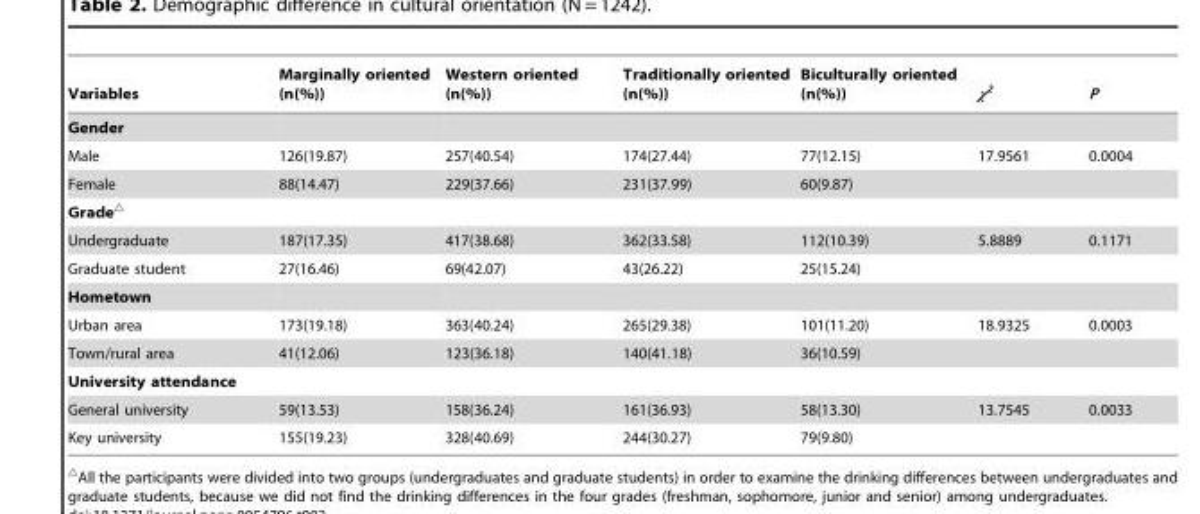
<table><thead><tr><td>Variables</td><td>Marginally oriented (n(%))</td><td>Western oriented (n(%))</td><td>Traditionally oriented (n(%))</td><td>Biculturally oriented (n(%))</td><td>χ<sup>2</sup></td><td>P</td></tr></thead><tbody><tr><td colspan="7">Gender</td></tr><tr><td>Male</td><td>126(19.87)</td><td>257(40.54)</td><td>174(27.44)</td><td>77(12.15)</td><td>17.9561</td><td>0.0004</td></tr><tr><td>Female</td><td>88(14.47)</td><td>229(37.66)</td><td>231(37.99)</td><td>60(9.87)</td><td></td><td></td></tr><tr><td colspan="7">Grade△</td></tr><tr><td>Undergraduate</td><td>187(17.35)</td><td>417(38.68)</td><td>362(33.58)</td><td>112(10.39)</td><td>5.8889</td><td>0.1171</td></tr><tr><td>Graduate student</td><td>27(16.46)</td><td>69(42.07)</td><td>43(26.22)</td><td>25(15.24)</td><td></td><td></td></tr><tr><td colspan="7">Hometown</td></tr><tr><td>Urban area</td><td>173(19.18)</td><td>363(40.24)</td><td>265(29.38)</td><td>101(11.20)</td><td>18.9325</td><td>0.0003</td></tr><tr><td>Town/rural area</td><td>41(12.06)</td><td>123(36.18)</td><td>140(41.18)</td><td>36(10.59)</td><td></td><td></td></tr><tr><td colspan="7">University attendance</td></tr><tr><td>General university</td><td>59(13.53)</td><td>158(36.24)</td><td>161(36.93)</td><td>58(13.30)</td><td>13.7545</td><td>0.0033</td></tr><tr><td>Key university</td><td>155(19.23)</td><td>328(40.69)</td><td>244(30.27)</td><td>79(9.80)</td><td></td><td></td></tr></tbody></table>